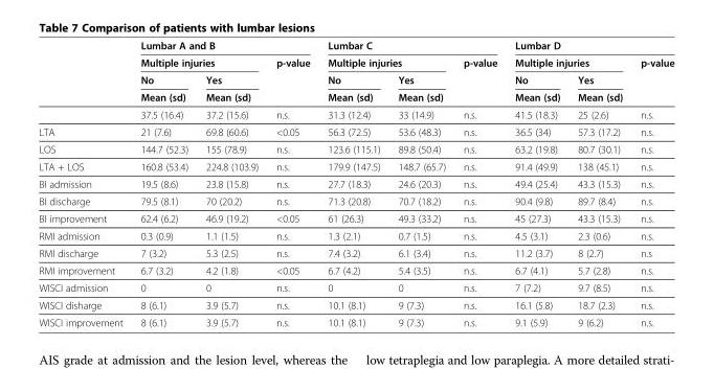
<table><thead><tr><td rowspan="4"></td><td colspan="3">Lumbar A and B</td><td colspan="3">Lumbar C</td><td colspan="3">Lumbar D</td></tr><tr><td colspan="2">Multiple injuries</td><td rowspan="3">p-value</td><td colspan="2">Multiple injuries</td><td rowspan="3">p-value</td><td colspan="2">Multiple injuries</td><td rowspan="3">p-value</td></tr><tr><td rowspan="2">No Mean (sd)</td><td rowspan="2">Yes Mean (sd)</td><td rowspan="2">No Mean (sd)</td><td rowspan="2">Yes Mean (sd)</td><td rowspan="2">No Mean (sd)</td><td rowspan="2">Yes Mean (sd)</td></tr><tr></tr></thead><tbody><tr><td></td><td>37.5 (16.4)</td><td>37.2 (15.6)</td><td>n.s.</td><td>31.3 (12.4)</td><td>33 (14.9)</td><td>n.s.</td><td>41.5 (18.3)</td><td>25 (2.6)</td><td>n.s.</td></tr><tr><td>LTA</td><td>21 (7.6)</td><td>69.8 (60.6)</td><td>&lt;0.05</td><td>56.3 (72.5)</td><td>53.6 (48.3)</td><td>n.s.</td><td>36.5 (34)</td><td>57.3 (17.2)</td><td>n.s.</td></tr><tr><td>LOS</td><td>144.7 (52.3)</td><td>155 (78.9)</td><td>n.s.</td><td>123.6 (115.1)</td><td>89.8 (50.4)</td><td>n.s.</td><td>63.2 (19.8)</td><td>80.7 (30.1)</td><td>n.s.</td></tr><tr><td>LTA + LOS</td><td>160.8 (53.4)</td><td>224.8 (103.9)</td><td>n.s.</td><td>179.9 (147.5)</td><td>148.7 (65.7)</td><td>n.s.</td><td>91.4 (49.9)</td><td>138 (45.1)</td><td>n.s.</td></tr><tr><td>BI admission</td><td>19.5 (8.6)</td><td>23.8 (15.8)</td><td>n.s.</td><td>27.7 (18.3)</td><td>24.6 (20.3)</td><td>n.s.</td><td>49.4 (25.4)</td><td>43.3 (15.3)</td><td>n.s.</td></tr><tr><td>BI discharge</td><td>79.5 (8.1)</td><td>70 (20.2)</td><td>n.s.</td><td>71.3 (20.8)</td><td>70.7 (18.2)</td><td>n.s.</td><td>90.4 (9.8)</td><td>89.7 (8.4)</td><td>n.s.</td></tr><tr><td>BI improvement</td><td>62.4 (6.2)</td><td>46.9 (19.2)</td><td>&lt;0.05</td><td>61 (26.3)</td><td>49.3 (33.2)</td><td>n.s.</td><td>45 (27.3)</td><td>43.3 (15.3)</td><td>n.s.</td></tr><tr><td>RMI admission</td><td>0.3 (0.9)</td><td>1.1 (1.5)</td><td>n.s.</td><td>1.3 (2.1)</td><td>0.7 (1.5)</td><td>n.s.</td><td>4.5 (3.1)</td><td>2.3 (0.6)</td><td>n.s.</td></tr><tr><td>RMI discharge</td><td>7 (3.2)</td><td>5.3 (2.5)</td><td>n.s.</td><td>7.4 (3.2)</td><td>6.1 (3.4)</td><td>n.s.</td><td>11.2 (3.7)</td><td>8 (2.7)</td><td>n.s</td></tr><tr><td>RMI improvement</td><td>6.7 (3.2)</td><td>4.2 (1.8)</td><td>&lt;0.05</td><td>6.7 (4.2)</td><td>5.4 (3.5)</td><td>n.s.</td><td>6.7 (4.1)</td><td>5.7 (2.8)</td><td>n.s.</td></tr><tr><td>WISCI admission</td><td>0</td><td>0</td><td>n.s.</td><td>0</td><td>0</td><td>n.s.</td><td>7 (7.2)</td><td>9.7 (8.5)</td><td>n.s.</td></tr><tr><td>WISCI disharge</td><td>8 (6.1)</td><td>3.9 (5.7)</td><td>n.s.</td><td>10.1 (8.1)</td><td>9 (7.3)</td><td>n.s.</td><td>16.1 (5.8)</td><td>18.7 (2.3)</td><td>n.s.</td></tr><tr><td>WISCI improvement</td><td>8 (6.1)</td><td>3.9 (5.7)</td><td>n.s.</td><td>10.1 (8.1)</td><td>9 (7.3)</td><td>n.s.</td><td>9.1 (5.9)</td><td>9 (6.2)</td><td>n.s.</td></tr></tbody></table>